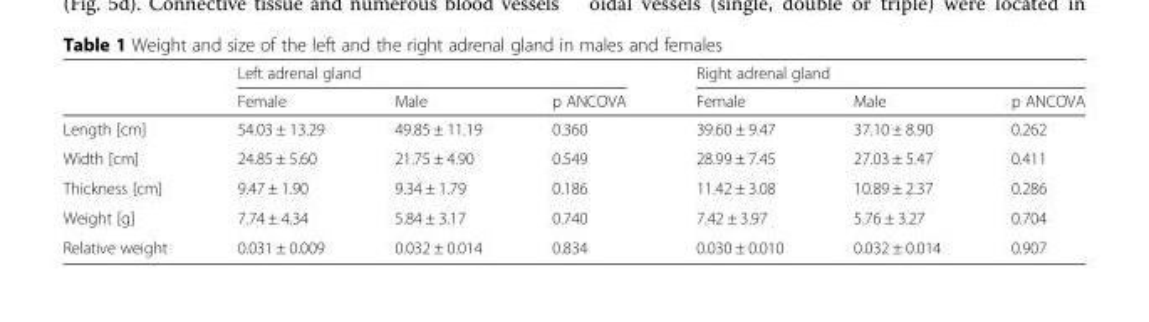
<table><thead><tr><td rowspan="2"></td><td colspan="3">Left adrenal gland</td><td colspan="3">Right adrenal gland</td></tr><tr><td>Female</td><td>Male</td><td>p ANCOVA</td><td>Female</td><td>Male</td><td>p ANCOVA</td></tr></thead><tbody><tr><td>Length [cm]</td><td>54.03 ± 13.29</td><td>49.85 ± 11.19</td><td>0.360</td><td>39.60 ± 9.47</td><td>37.10 ± 8.90</td><td>0.262</td></tr><tr><td>Width [cm]</td><td>24.85 ± 5.60</td><td>21.75 ± 4.90</td><td>0.549</td><td>28.99 ± 7.45</td><td>27.03 ± 5.47</td><td>0.411</td></tr><tr><td>Thickness [cm]</td><td>9.47 ± 1.90</td><td>9.34 ± 1.79</td><td>0.186</td><td>11.42 ± 3.08</td><td>10.89 ± 2.37</td><td>0.286</td></tr><tr><td>Weight [g]</td><td>7.74 ± 4.34</td><td>5.84 ± 3.17</td><td>0.740</td><td>7.42 ± 3.97</td><td>5.76 ± 3.27</td><td>0.704</td></tr><tr><td>Relative weight</td><td>0.031 ± 0.009</td><td>0.032 ± 0.014</td><td>0.834</td><td>0.030 ± 0.010</td><td>0.032 ± 0.014</td><td>0.907</td></tr></tbody></table>